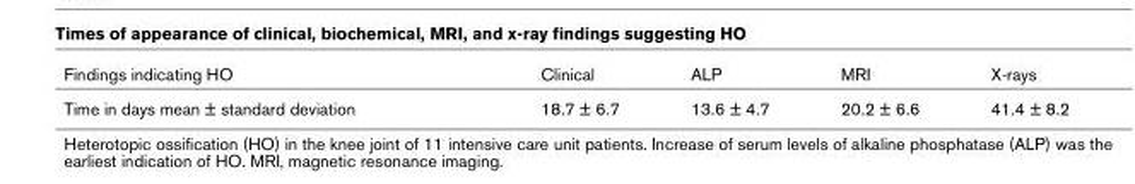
<table><thead><tr><td>Findings indicating HO</td><td>Clinical</td><td>ALP</td><td>MRI</td><td>X-rays</td></tr></thead><tbody><tr><td>Time in days mean ± standard deviation</td><td>18.7 ± 6.7</td><td>13.6 ± 4.7</td><td>20.2 ± 6.6</td><td>41.4 ± 8.2</td></tr></tbody></table>